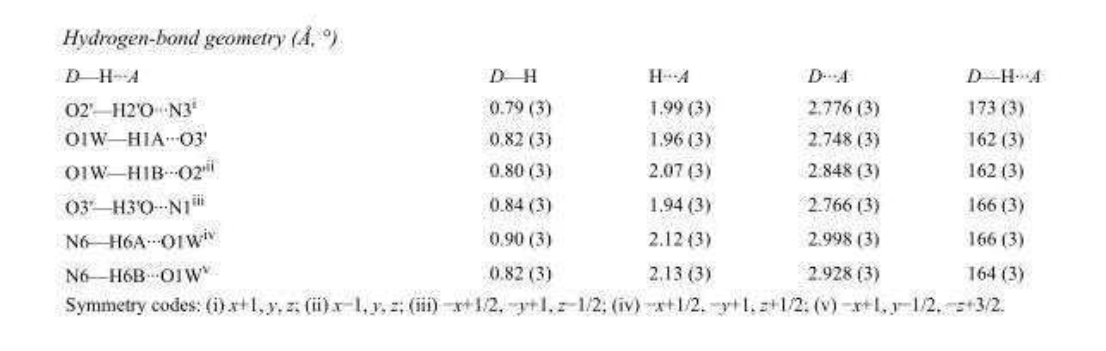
<table><tbody><tr><td>D—H···A</td><td>D—H</td><td>H···A</td><td>D···A</td><td>D—H···A</td></tr><tr><td>O2&#x27;—H2&#x27;O···N3<sup>i</sup></td><td>0.79 (3)</td><td>1.99 (3)</td><td>2.776 (3)</td><td>173 (3)</td></tr><tr><td>O1W—H1A···O3&#x27;</td><td>0.82 (3)</td><td>1.96 (3)</td><td>2.748 (3)</td><td>162 (3)</td></tr><tr><td>O1W—H1B···O2&#x27;<sup>ii</sup></td><td>0.80 (3)</td><td>2.07 (3)</td><td>2.848 (3)</td><td>162 (3)</td></tr><tr><td>O3&#x27;—H3&#x27;O···N1<sup>iii</sup></td><td>0.84 (3)</td><td>1.94 (3)</td><td>2.766 (3)</td><td>166 (3)</td></tr><tr><td>N6—H6A···O1W<sup>iv</sup></td><td>0.90 (3)</td><td>2.12 (3)</td><td>2.998 (3)</td><td>166 (3)</td></tr><tr><td>N6—H6B···O1W<sup>v</sup></td><td>0.82 (3)</td><td>2.13 (3)</td><td>2.928 (3)</td><td>164 (3)</td></tr></tbody></table>